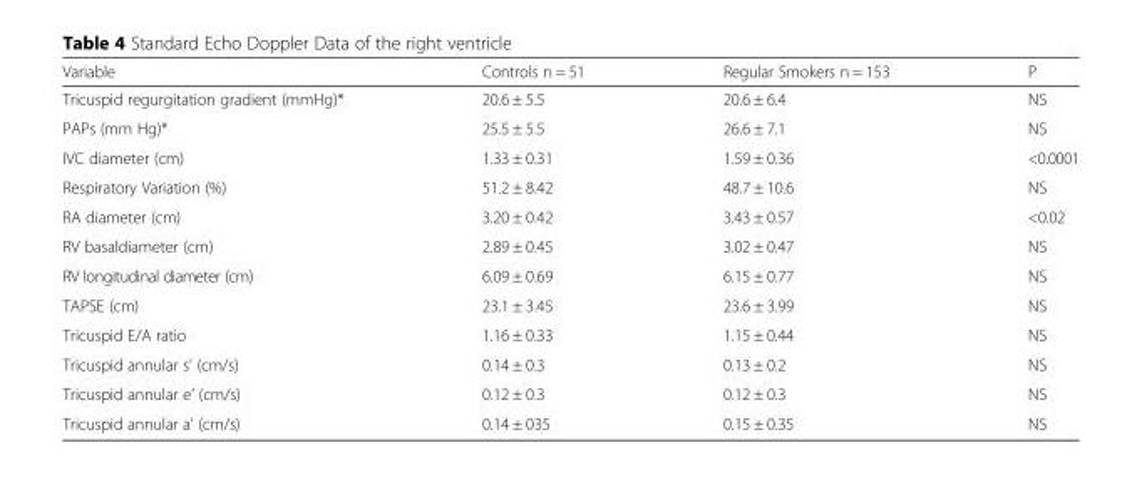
<table><thead><tr><td>Variable</td><td>Controls n = 51</td><td>Regular Smokers n = 153</td><td>P</td></tr></thead><tbody><tr><td>Tricuspid regurgitation gradient (mmHg)*</td><td>20.6 ± 5.5</td><td>20.6 ± 6.4</td><td>NS</td></tr><tr><td>PAPs (mm Hg)*</td><td>25.5 ± 5.5</td><td>26.6 ± 7.1</td><td>NS</td></tr><tr><td>IVC diameter (cm)</td><td>1.33 ± 0.31</td><td>1.59 ± 0.36</td><td>&lt;0.0001</td></tr><tr><td>Respiratory Variation (%)</td><td>51.2 ± 8.42</td><td>48.7 ± 10.6</td><td>NS</td></tr><tr><td>RA diameter (cm)</td><td>3.20 ± 0.42</td><td>3.43 ± 0.57</td><td>&lt;0.02</td></tr><tr><td>RV basaldiameter (cm)</td><td>2.89 ± 0.45</td><td>3.02 ± 0.47</td><td>NS</td></tr><tr><td>RV longitudinal diameter (cm)</td><td>6.09 ± 0.69</td><td>6.15 ± 0.77</td><td>NS</td></tr><tr><td>TAPSE (cm)</td><td>23.1 ± 3.45</td><td>23.6 ± 3.99</td><td>NS</td></tr><tr><td>Tricuspid E/A ratio</td><td>1.16 ± 0.33</td><td>1.15 ± 0.44</td><td>NS</td></tr><tr><td>Tricuspid annular s’ (cm/s)</td><td>0.14 ± 0.3</td><td>0.13 ± 0.2</td><td>NS</td></tr><tr><td>Tricuspid annular e’ (cm/s)</td><td>0.12 ± 0.3</td><td>0.12 ± 0.3</td><td>NS</td></tr><tr><td>Tricuspid annular a’ (cm/s)</td><td>0.14 ± 035</td><td>0.15 ± 0.35</td><td>NS</td></tr></tbody></table>